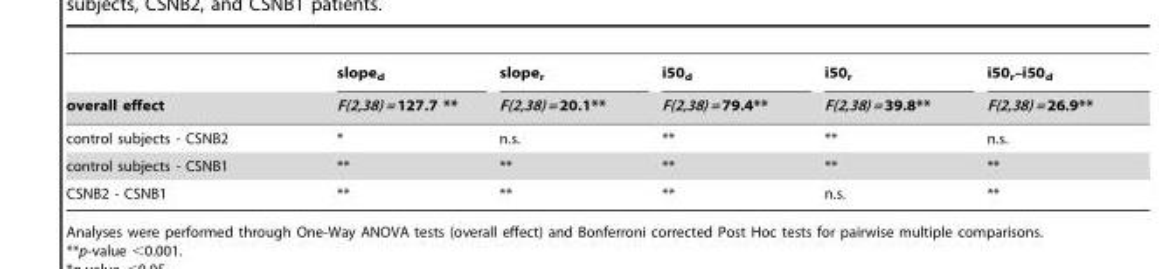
<table><thead><tr><td rowspan="2">overall effect</td><td rowspan="2">slope<sub>d</sub> F(2,38) = 127.7 **</td><td rowspan="2">slope<sub>r</sub> F(2,38) = 20.1**</td><td rowspan="2">i50<sub>d</sub> F(2,38) = 79.4**</td><td rowspan="2">i50<sub>r</sub> F(2,38) = 39.8**</td><td rowspan="2">i50<sub>r</sub>–i50<sub>d</sub> F(2,38) = 26.9**</td></tr><tr></tr></thead><tbody><tr><td>control subjects - CSNB2</td><td>*</td><td>n.s.</td><td>**</td><td>**</td><td>n.s.</td></tr><tr><td>control subjects - CSNB1</td><td>**</td><td>**</td><td>**</td><td>**</td><td>**</td></tr><tr><td>CSNB2 - CSNB1</td><td>**</td><td>**</td><td>**</td><td>n.s.</td><td>**</td></tr></tbody></table>